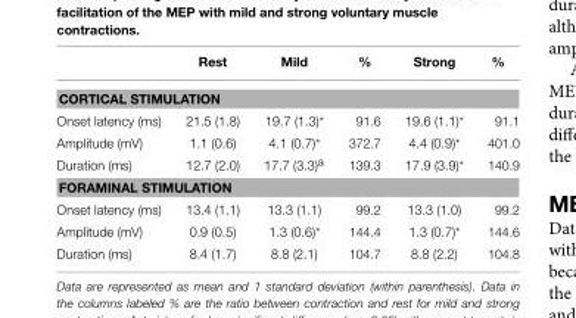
<table><thead><tr><td></td><td>Rest</td><td>Mild</td><td>%</td><td>Strong</td><td>%</td></tr></thead><tbody><tr><td colspan="6">CORTICAL STIMULATION</td></tr><tr><td>Onset latency (ms)</td><td>21.5 (1.8)</td><td>19.7 (1.3)*</td><td>91.6</td><td>19.6 (1.1)*</td><td>91.1</td></tr><tr><td>Amplitude (mV)</td><td>1.1 (0.6)</td><td>4.1 (0.7)*</td><td>372.7</td><td>4.4 (0.9)*</td><td>401.0</td></tr><tr><td>Duration (ms)</td><td>12.7 (2.0)</td><td>17.7 (3.3)<sup>a</sup></td><td>139.3</td><td>17.9 (3.9)*</td><td>140.9</td></tr><tr><td colspan="6">FORAMINAL STIMULATION</td></tr><tr><td>Onset latency (ms)</td><td>13.4 (1.1)</td><td>13.3 (1.1)</td><td>99.2</td><td>13.3 (1.0)</td><td>99.2</td></tr><tr><td>Amplitude (mV)</td><td>0.9 (0.5)</td><td>1.3 (0.6)*</td><td>144.4</td><td>1.3 (0.7)*</td><td>144.6</td></tr><tr><td>Duration (ms)</td><td>8.4 (1.7)</td><td>8.8 (2.1)</td><td>104.7</td><td>8.8 (2.2)</td><td>104.8</td></tr></tbody></table>